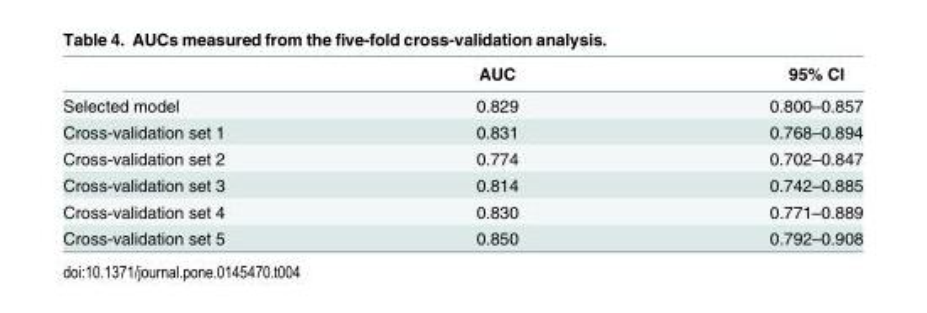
<table><thead><tr><td></td><td>AUC</td><td>95% CI</td></tr></thead><tbody><tr><td>Selected model</td><td>0.829</td><td>0.800–0.857</td></tr><tr><td>Cross-validation set 1</td><td>0.831</td><td>0.768–0.894</td></tr><tr><td>Cross-validation set 2</td><td>0.774</td><td>0.702–0.847</td></tr><tr><td>Cross-validation set 3</td><td>0.814</td><td>0.742–0.885</td></tr><tr><td>Cross-validation set 4</td><td>0.830</td><td>0.771–0.889</td></tr><tr><td>Cross-validation set 5</td><td>0.850</td><td>0.792–0.908</td></tr></tbody></table>